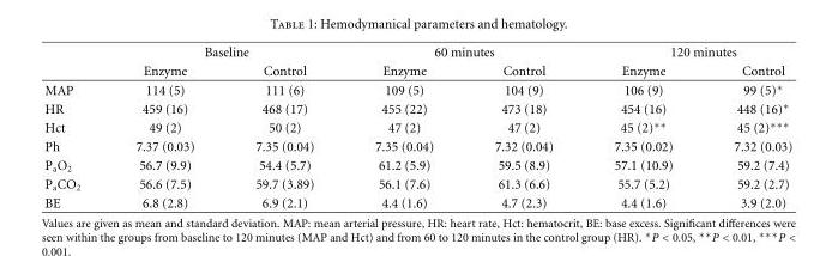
<table><thead><tr><td rowspan="2"></td><td colspan="2">Baseline</td><td colspan="2">60 minutes</td><td colspan="2">120 minutes</td></tr><tr><td>Enzyme</td><td>Control</td><td>Enzyme</td><td>Control</td><td>Enzyme</td><td>Control</td></tr></thead><tbody><tr><td>MAP</td><td>114 (5)</td><td>111 (6)</td><td>109 (5)</td><td>104 (9)</td><td>106 (9)</td><td>99 (5)∗</td></tr><tr><td>HR</td><td>459 (16)</td><td>468 (17)</td><td>455 (22)</td><td>473 (18)</td><td>454 (16)</td><td>448 (16)∗</td></tr><tr><td>Hct</td><td>49 (2)</td><td>50 (2)</td><td>47 (2)</td><td>47 (2)</td><td>45 (2)∗∗</td><td>45 (2)∗∗∗</td></tr><tr><td>Ph</td><td>7.37 (0.03)</td><td>7.35 (0.04)</td><td>7.35 (0.04)</td><td>7.32 (0.04)</td><td>7.35 (0.02)</td><td>7.32 (0.03)</td></tr><tr><td>P<sub>a</sub>O<sub>2</sub></td><td>56.7 (9.9)</td><td>54.4 (5.7)</td><td>61.2 (5.9)</td><td>59.5 (8.9)</td><td>57.1 (10.9)</td><td>59.2 (7.4)</td></tr><tr><td>P<sub>a</sub>CO<sub>2</sub></td><td>56.6 (7.5)</td><td>59.7 (3.89)</td><td>56.1 (7.6)</td><td>61.3 (6.6)</td><td>55.7 (5.2)</td><td>59.2 (2.7)</td></tr><tr><td>BE</td><td>6.8 (2.8)</td><td>6.9 (2.1)</td><td>4.4 (1.6)</td><td>4.7 (2.3)</td><td>4.4 (1.6)</td><td>3.9 (2.0)</td></tr></tbody></table>